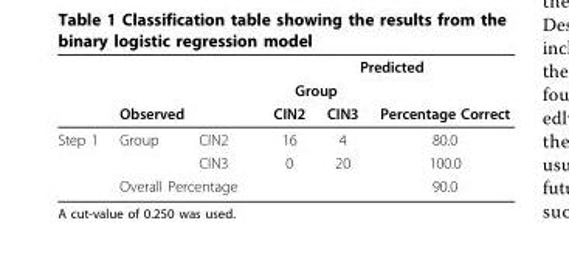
<table><thead><tr><td rowspan="3"></td><td rowspan="2"></td><td rowspan="2"></td><td colspan="3">Predicted</td></tr><tr><td colspan="2">Group</td><td rowspan="2">Percentage Correct</td></tr><tr><td colspan="2">Observed</td><td>CIN2</td><td>CIN3</td></tr></thead><tbody><tr><td rowspan="3">Step 1</td><td>Group</td><td>CIN2</td><td>16</td><td>4</td><td>80.0</td></tr><tr><td></td><td>CIN3</td><td>0</td><td>20</td><td>100.0</td></tr><tr><td colspan="2">Overall Percentage</td><td></td><td></td><td>90.0</td></tr></tbody></table>